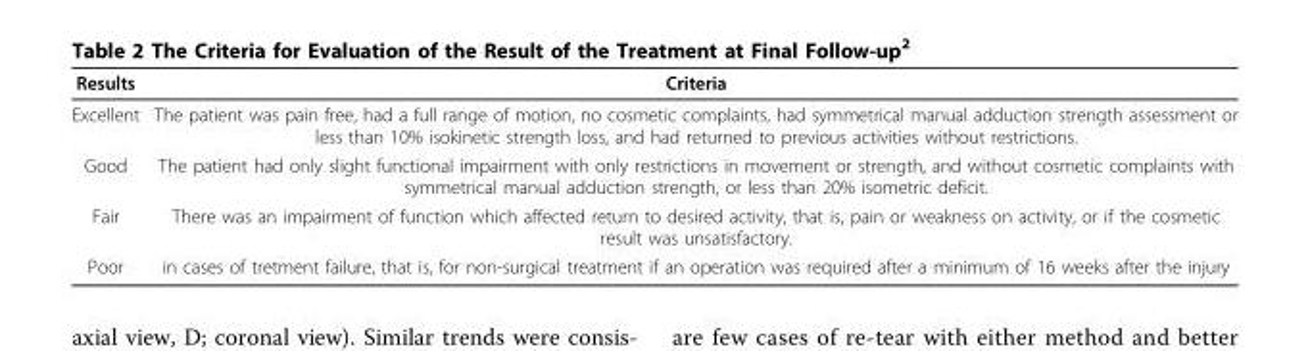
<table><thead><tr><td>Results</td><td>Criteria</td></tr></thead><tbody><tr><td>Excellent</td><td>The patient was pain free, had a full range of motion, no cosmetic complaints, had symmetrical manual adduction strength assessment or less than 10% isokinetic strength loss, and had returned to previous activities without restrictions.</td></tr><tr><td>Good</td><td>The patient had only slight functional impairment with only restrictions in movement or strength, and without cosmetic complaints with symmetrical manual adduction strength, or less than 20% isometric deficit.</td></tr><tr><td>Fair</td><td>There was an impairment of function which affected return to desired activity, that is, pain or weakness on activity, or if the cosmetic result was unsatisfactory.</td></tr><tr><td>Poor</td><td>in cases of tretment failure, that is, for non-surgical treatment if an operation was required after a minimum of 16 weeks after the injury</td></tr></tbody></table>